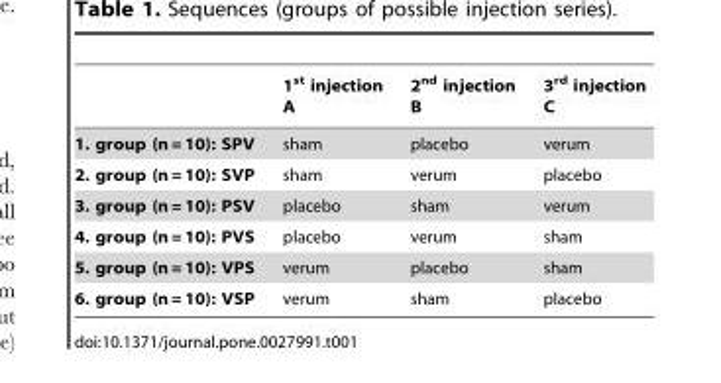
<table><thead><tr><td></td><td>1<sup>st</sup> injection A</td><td>2<sup>nd</sup> injection B</td><td>3<sup>rd</sup> injection C</td></tr></thead><tbody><tr><td>1. group (n = 10): SPV</td><td>sham</td><td>placebo</td><td>verum</td></tr><tr><td>2. group (n = 10): SVP</td><td>sham</td><td>verum</td><td>placebo</td></tr><tr><td>3. group (n = 10): PSV</td><td>placebo</td><td>sham</td><td>verum</td></tr><tr><td>4. group (n = 10): PVS</td><td>placebo</td><td>verum</td><td>sham</td></tr><tr><td>5. group (n = 10): VPS</td><td>verum</td><td>placebo</td><td>sham</td></tr><tr><td>6. group (n = 10): VSP</td><td>verum</td><td>sham</td><td>placebo</td></tr></tbody></table>